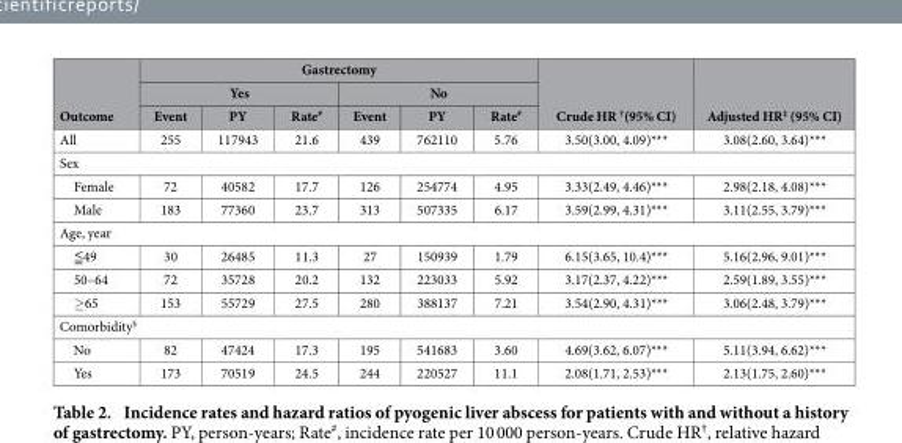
<table><thead><tr><td rowspan="3">Outcome</td><td colspan="6">Gastrectomy</td><td rowspan="3">Crude HR †(95% CI)</td><td rowspan="3">Adjusted HR<sup>‡</sup> (95% CI)</td></tr><tr><td colspan="3">Yes</td><td colspan="3">No</td></tr><tr><td>Event</td><td>PY</td><td>Rate<sup>#</sup></td><td>Event</td><td>PY</td><td>Rate<sup>#</sup></td></tr></thead><tbody><tr><td>All</td><td>255</td><td>117943</td><td>21.6</td><td>439</td><td>762110</td><td>5.76</td><td>3.50(3.00, 4.09)***</td><td>3.08(2.60, 3.64)***</td></tr><tr><td colspan="9">Sex</td></tr><tr><td>Female</td><td>72</td><td>40582</td><td>17.7</td><td>126</td><td>254774</td><td>4.95</td><td>3.33(2.49, 4.46)***</td><td>2.98(2.18, 4.08)***</td></tr><tr><td>Male</td><td>183</td><td>77360</td><td>23.7</td><td>313</td><td>507335</td><td>6.17</td><td>3.59(2.99, 4.31)***</td><td>3.11(2.55, 3.79)***</td></tr><tr><td colspan="9">Age, year</td></tr><tr><td>≦ 49</td><td>30</td><td>26485</td><td>11.3</td><td>27</td><td>150939</td><td>1.79</td><td>6.15(3.65, 10.4)***</td><td>5.16(2.96, 9.01)***</td></tr><tr><td>50–64</td><td>72</td><td>35728</td><td>20.2</td><td>132</td><td>223033</td><td>5.92</td><td>3.17(2.37, 4.22)***</td><td>2.59(1.89, 3.55)***</td></tr><tr><td>≥ 65</td><td>153</td><td>55729</td><td>27.5</td><td>280</td><td>388137</td><td>7.21</td><td>3.54(2.90, 4.31)***</td><td>3.06(2.48, 3.79)***</td></tr><tr><td colspan="9">Comorbidity<sup>§</sup></td></tr><tr><td>No</td><td>82</td><td>47424</td><td>17.3</td><td>195</td><td>541683</td><td>3.60</td><td>4.69(3.62, 6.07)***</td><td>5.11(3.94, 6.62)***</td></tr><tr><td>Yes</td><td>173</td><td>70519</td><td>24.5</td><td>244</td><td>220527</td><td>11.1</td><td>2.08(1.71, 2.53)***</td><td>2.13(1.75, 2.60)***</td></tr></tbody></table>